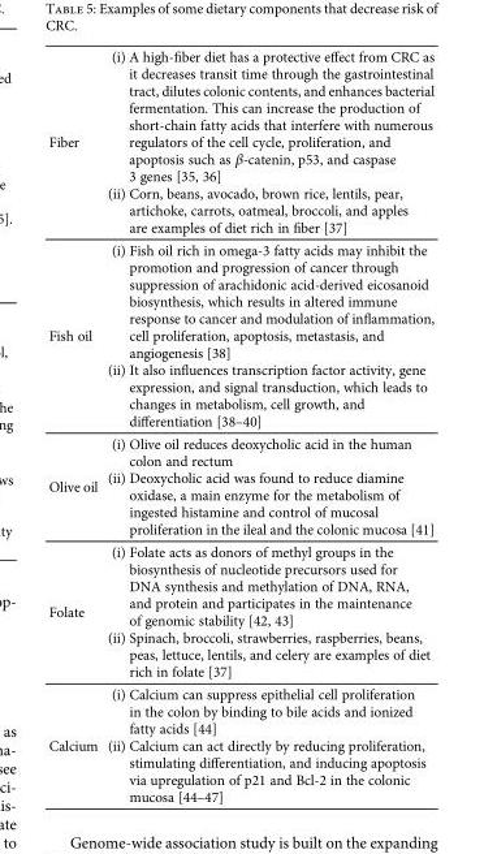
<table><tbody><tr><td>Fiber</td><td>(i) A high-fiber diet has a protective effect from CRC as it decreases transit time through the gastrointestinal tract, dilutes colonic contents, and enhances bacterial fermentation. This can increase the production of short-chain fatty acids that interfere with numerous regulators of the cell cycle, proliferation, and apoptosis such as β-catenin, p53, and caspase 3 genes [35, 36] (ii) Corn, beans, avocado, brown rice, lentils, pear, artichoke, carrots, oatmeal, broccoli, and apples are examples of diet rich in fiber [37]</td></tr><tr><td>Fish oil</td><td>(i) Fish oil rich in omega-3 fatty acids may inhibit the promotion and progression of cancer through suppression of arachidonic acid-derived eicosanoid biosynthesis, which results in altered immune response to cancer and modulation of inflammation, cell proliferation, apoptosis, metastasis, and angiogenesis [38] (ii) It also influences transcription factor activity, gene expression, and signal transduction, which leads to changes in metabolism, cell growth, and differentiation [38–40]</td></tr><tr><td>Olive oil</td><td>(i) Olive oil reduces deoxycholic acid in the human colon and rectum (ii) Deoxycholic acid was found to reduce diamine oxidase, a main enzyme for the metabolism of ingested histamine and control of mucosal proliferation in the ileal and the colonic mucosa [41]</td></tr><tr><td>Folate</td><td>(i) Folate acts as donors of methyl groups in the biosynthesis of nucleotide precursors used for DNA synthesis and methylation of DNA, RNA, and protein and participates in the maintenance of genomic stability [42, 43] (ii) Spinach, broccoli, strawberries, raspberries, beans, peas, lettuce, lentils, and celery are examples of diet rich in folate [37]</td></tr><tr><td>Calcium</td><td>(i) Calcium can suppress epithelial cell proliferation in the colon by binding to bile acids and ionized fatty acids [44] (ii) Calcium can act directly by reducing proliferation, stimulating differentiation, and inducing apoptosis via upregulation of p21 and Bcl-2 in the colonic mucosa [44–47]</td></tr></tbody></table>